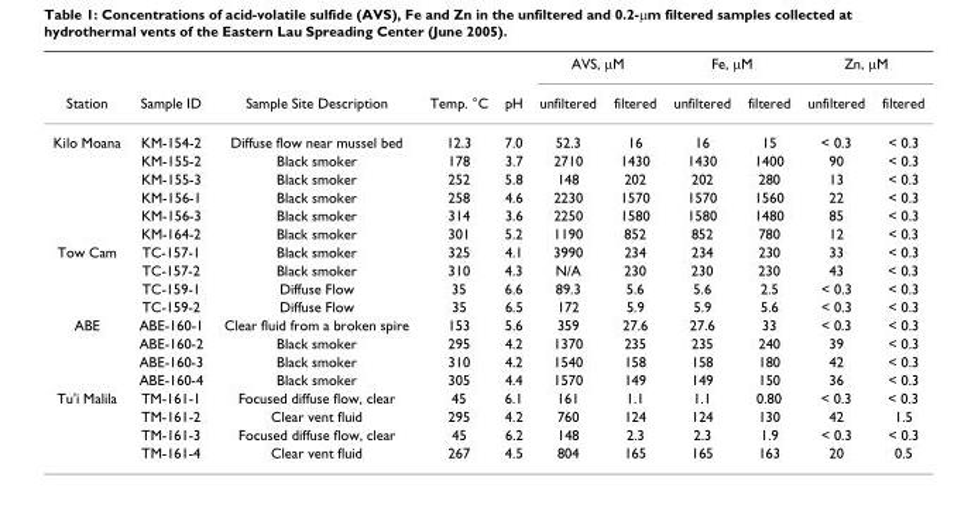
<table><thead><tr><td rowspan="2">Station</td><td rowspan="2">Sample ID</td><td rowspan="2">Sample Site Description</td><td rowspan="2">Temp. °C</td><td rowspan="2">pH</td><td colspan="2">AVS, µM</td><td colspan="2">Fe, µM</td><td colspan="2">Zn, µM</td></tr><tr><td>unfiltered</td><td>filtered</td><td>unfiltered</td><td>filtered</td><td>unfiltered</td><td>filtered</td></tr></thead><tbody><tr><td rowspan="6">Kilo Moana</td><td>KM-154-2</td><td>Diffuse flow near mussel bed</td><td>12.3</td><td>7.0</td><td>52.3</td><td>16</td><td>16</td><td>15</td><td>&lt; 0.3</td><td>&lt; 0.3</td></tr><tr><td>KM-155-2</td><td>Black smoker</td><td>178</td><td>3.7</td><td>2710</td><td>1430</td><td>1430</td><td>1400</td><td>90</td><td>&lt; 0.3</td></tr><tr><td>KM-155-3</td><td>Black smoker</td><td>252</td><td>5.8</td><td>148</td><td>202</td><td>202</td><td>280</td><td>13</td><td>&lt; 0.3</td></tr><tr><td>KM-156-1</td><td>Black smoker</td><td>258</td><td>4.6</td><td>2230</td><td>1570</td><td>1570</td><td>1560</td><td>22</td><td>&lt; 0.3</td></tr><tr><td>KM-156-3</td><td>Black smoker</td><td>314</td><td>3.6</td><td>2250</td><td>1580</td><td>1580</td><td>1480</td><td>85</td><td>&lt; 0.3</td></tr><tr><td>KM-164-2</td><td>Black smoker</td><td>301</td><td>5.2</td><td>1190</td><td>852</td><td>852</td><td>780</td><td>12</td><td>&lt; 0.3</td></tr><tr><td rowspan="4">Tow Cam</td><td>TC-157-1</td><td>Black smoker</td><td>325</td><td>4.1</td><td>3990</td><td>234</td><td>234</td><td>230</td><td>33</td><td>&lt; 0.3</td></tr><tr><td>TC-157-2</td><td>Black smoker</td><td>310</td><td>4.3</td><td>N/A</td><td>230</td><td>230</td><td>230</td><td>43</td><td>&lt; 0.3</td></tr><tr><td>TC-159-1</td><td>Diffuse Flow</td><td>35</td><td>6.6</td><td>89.3</td><td>5.6</td><td>5.6</td><td>2.5</td><td>&lt; 0.3</td><td>&lt; 0.3</td></tr><tr><td>TC-159-2</td><td>Diffuse Flow</td><td>35</td><td>6.5</td><td>172</td><td>5.9</td><td>5.9</td><td>5.6</td><td>&lt; 0.3</td><td>&lt; 0.3</td></tr><tr><td rowspan="4">ABE</td><td>ABE-160-1</td><td>Clear fluid from a broken spire</td><td>153</td><td>5.6</td><td>359</td><td>27.6</td><td>27.6</td><td>33</td><td>&lt; 0.3</td><td>&lt; 0.3</td></tr><tr><td>ABE-160-2</td><td>Black smoker</td><td>295</td><td>4.2</td><td>1370</td><td>235</td><td>235</td><td>240</td><td>39</td><td>&lt; 0.3</td></tr><tr><td>ABE-160-3</td><td>Black smoker</td><td>310</td><td>4.2</td><td>1540</td><td>158</td><td>158</td><td>180</td><td>42</td><td>&lt; 0.3</td></tr><tr><td>ABE-160-4</td><td>Black smoker</td><td>305</td><td>4.4</td><td>1570</td><td>149</td><td>149</td><td>150</td><td>36</td><td>&lt; 0.3</td></tr><tr><td rowspan="4">Tu&#x27;i Malila</td><td>TM-161-1</td><td>Focused diffuse flow, clear</td><td>45</td><td>6.1</td><td>161</td><td>1.1</td><td>1.1</td><td>0.80</td><td>&lt; 0.3</td><td>&lt; 0.3</td></tr><tr><td>TM-161-2</td><td>Clear vent fluid</td><td>295</td><td>4.2</td><td>760</td><td>124</td><td>124</td><td>130</td><td>42</td><td>1.5</td></tr><tr><td>TM-161-3</td><td>Focused diffuse flow, clear</td><td>45</td><td>6.2</td><td>148</td><td>2.3</td><td>2.3</td><td>1.9</td><td>&lt; 0.3</td><td>&lt; 0.3</td></tr><tr><td>TM-161-4</td><td>Clear vent fluid</td><td>267</td><td>4.5</td><td>804</td><td>165</td><td>165</td><td>163</td><td>20</td><td>0.5</td></tr></tbody></table>